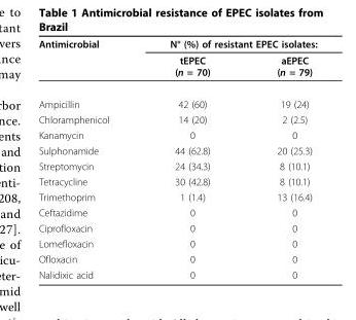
<table><thead><tr><td rowspan="2">Antimicrobial</td><td colspan="2">N° (%) of resistant EPEC isolates:</td></tr><tr><td>tEPEC (n = 70)</td><td>aEPEC (n = 79)</td></tr></thead><tbody><tr><td>Ampicillin</td><td>42 (60)</td><td>19 (24)</td></tr><tr><td>Chloramphenicol</td><td>14 (20)</td><td>2 (2.5)</td></tr><tr><td>Kanamycin</td><td>0</td><td>0</td></tr><tr><td>Sulphonamide</td><td>44 (62.8)</td><td>20 (25.3)</td></tr><tr><td>Streptomycin</td><td>24 (34.3)</td><td>8 (10.1)</td></tr><tr><td>Tetracycline</td><td>30 (42.8)</td><td>8 (10.1)</td></tr><tr><td>Trimethoprim</td><td>1 (1.4)</td><td>13 (16.4)</td></tr><tr><td>Ceftazidime</td><td>0</td><td>0</td></tr><tr><td>Ciprofloxacin</td><td>0</td><td>0</td></tr><tr><td>Lomefloxacin</td><td>0</td><td>0</td></tr><tr><td>Ofloxacin</td><td>0</td><td>0</td></tr><tr><td>Nalidixic acid</td><td>0</td><td>0</td></tr></tbody></table>